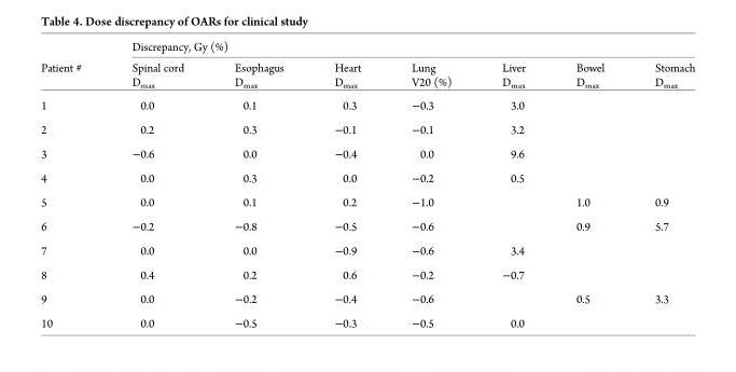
<table><thead><tr><td rowspan="3">Patient #</td><td colspan="7">Discrepancy, Gy (%)</td></tr><tr><td rowspan="2">Spinal cord D<sub>max</sub></td><td rowspan="2">Esophagus D<sub>max</sub></td><td rowspan="2">Heart D<sub>max</sub></td><td rowspan="2">Lung V20 (%)</td><td rowspan="2">Liver D<sub>max</sub></td><td rowspan="2">Bowel D<sub>max</sub></td><td rowspan="2">Stomach D<sub>max</sub></td></tr><tr></tr></thead><tbody><tr><td>1</td><td>0.0</td><td>0.1</td><td>0.3</td><td>−0.3</td><td>3.0</td><td></td><td></td></tr><tr><td>2</td><td>0.2</td><td>0.3</td><td>−0.1</td><td>−0.1</td><td>3.2</td><td></td><td></td></tr><tr><td>3</td><td>−0.6</td><td>0.0</td><td>−0.4</td><td>0.0</td><td>9.6</td><td></td><td></td></tr><tr><td>4</td><td>0.0</td><td>0.3</td><td>0.0</td><td>−0.2</td><td>0.5</td><td></td><td></td></tr><tr><td>5</td><td>0.0</td><td>0.1</td><td>0.2</td><td>−1.0</td><td></td><td>1.0</td><td>0.9</td></tr><tr><td>6</td><td>−0.2</td><td>−0.8</td><td>−0.5</td><td>−0.6</td><td></td><td>0.9</td><td>5.7</td></tr><tr><td>7</td><td>0.0</td><td>0.0</td><td>−0.9</td><td>−0.6</td><td>3.4</td><td></td><td></td></tr><tr><td>8</td><td>0.4</td><td>0.2</td><td>0.6</td><td>−0.2</td><td>−0.7</td><td></td><td></td></tr><tr><td>9</td><td>0.0</td><td>−0.2</td><td>−0.4</td><td>−0.6</td><td></td><td>0.5</td><td>3.3</td></tr><tr><td>10</td><td>0.0</td><td>−0.5</td><td>−0.3</td><td>−0.5</td><td>0.0</td><td></td><td></td></tr></tbody></table>